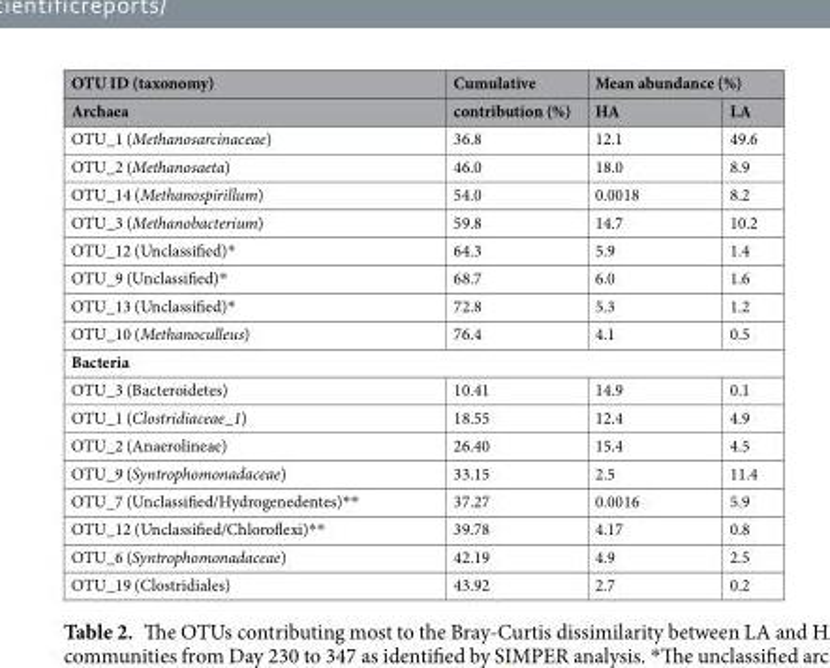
<table><thead><tr><td rowspan="2">OTU ID (taxonomy) Archaea</td><td rowspan="2">Cumulative contribution (%)</td><td colspan="2">Mean abundance (%)</td></tr><tr><td>HA</td><td>LA</td></tr></thead><tbody><tr><td>OTU_1 (Methanosarcinaceae)</td><td>36.8</td><td>12.1</td><td>49.6</td></tr><tr><td>OTU_2 (Methanosaeta)</td><td>46.0</td><td>18.0</td><td>8.9</td></tr><tr><td>OTU_14 (Methanospirillum)</td><td>54.0</td><td>0.0018</td><td>8.2</td></tr><tr><td>OTU_3 (Methanobacterium)</td><td>59.8</td><td>14.7</td><td>10.2</td></tr><tr><td>OTU_12 (Unclassified)*</td><td>64.3</td><td>5.9</td><td>1.4</td></tr><tr><td>OTU_9 (Unclassified)*</td><td>68.7</td><td>6.0</td><td>1.6</td></tr><tr><td>OTU_13 (Unclassified)*</td><td>72.8</td><td>5.3</td><td>1.2</td></tr><tr><td>OTU_10 (Methanoculleus)</td><td>76.4</td><td>4.1</td><td>0.5</td></tr><tr><td colspan="4">Bacteria</td></tr><tr><td>OTU_3 (Bacteroidetes)</td><td>10.41</td><td>14.9</td><td>0.1</td></tr><tr><td>OTU_1 (Clostridiaceae_1)</td><td>18.55</td><td>12.4</td><td>4.9</td></tr><tr><td>OTU_2 (Anaerolineae)</td><td>26.40</td><td>15.4</td><td>4.5</td></tr><tr><td>OTU_9 (Syntrophomonadaceae)</td><td>33.15</td><td>2.5</td><td>11.4</td></tr><tr><td>OTU_7 (Unclassified/Hydrogenedentes)**</td><td>37.27</td><td>0.0016</td><td>5.9</td></tr><tr><td>OTU_12 (Unclassified/Chloroflexi)**</td><td>39.78</td><td>4.17</td><td>0.8</td></tr><tr><td>OTU_6 (Syntrophomonadaceae)</td><td>42.19</td><td>4.9</td><td>2.5</td></tr><tr><td>OTU_19 (Clostridiales)</td><td>43.92</td><td>2.7</td><td>0.2</td></tr></tbody></table>